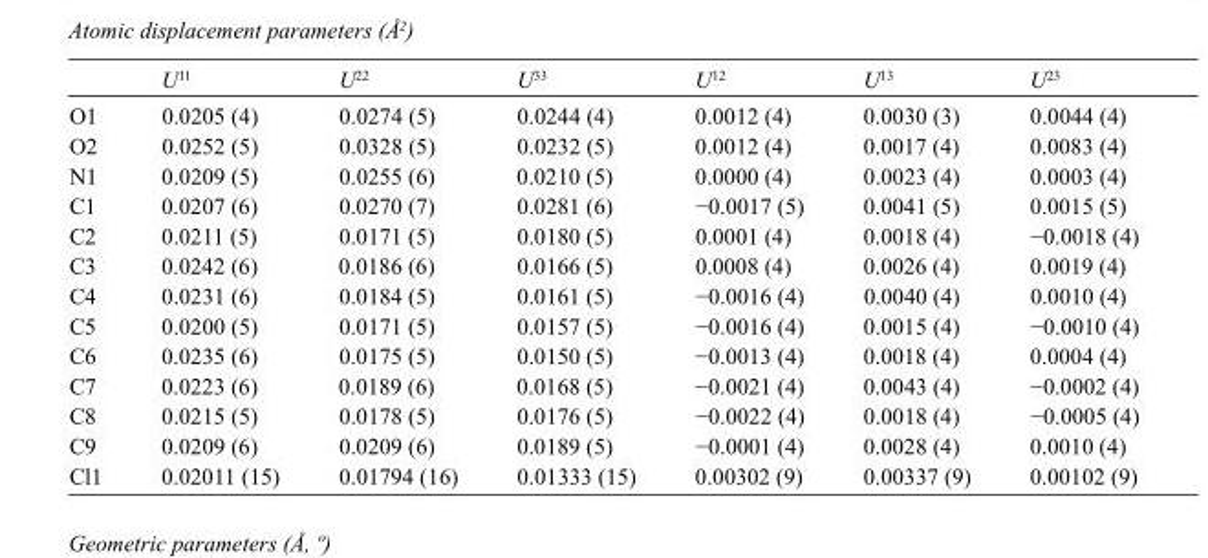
<table><thead><tr><td></td><td>U<sup>11</sup></td><td>U<sup>22</sup></td><td>U<sup>33</sup></td><td>U<sup>12</sup></td><td>U<sup>13</sup></td><td>U<sup>23</sup></td></tr></thead><tbody><tr><td>O1</td><td>0.0205 (4)</td><td>0.0274 (5)</td><td>0.0244 (4)</td><td>0.0012 (4)</td><td>0.0030 (3)</td><td>0.0044 (4)</td></tr><tr><td>O2</td><td>0.0252 (5)</td><td>0.0328 (5)</td><td>0.0232 (5)</td><td>0.0012 (4)</td><td>0.0017 (4)</td><td>0.0083 (4)</td></tr><tr><td>N1</td><td>0.0209 (5)</td><td>0.0255 (6)</td><td>0.0210 (5)</td><td>0.0000 (4)</td><td>0.0023 (4)</td><td>0.0003 (4)</td></tr><tr><td>C1</td><td>0.0207 (6)</td><td>0.0270 (7)</td><td>0.0281 (6)</td><td>−0.0017 (5)</td><td>0.0041 (5)</td><td>0.0015 (5)</td></tr><tr><td>C2</td><td>0.0211 (5)</td><td>0.0171 (5)</td><td>0.0180 (5)</td><td>0.0001 (4)</td><td>0.0018 (4)</td><td>−0.0018 (4)</td></tr><tr><td>C3</td><td>0.0242 (6)</td><td>0.0186 (6)</td><td>0.0166 (5)</td><td>0.0008 (4)</td><td>0.0026 (4)</td><td>0.0019 (4)</td></tr><tr><td>C4</td><td>0.0231 (6)</td><td>0.0184 (5)</td><td>0.0161 (5)</td><td>−0.0016 (4)</td><td>0.0040 (4)</td><td>0.0010 (4)</td></tr><tr><td>C5</td><td>0.0200 (5)</td><td>0.0171 (5)</td><td>0.0157 (5)</td><td>−0.0016 (4)</td><td>0.0015 (4)</td><td>−0.0010 (4)</td></tr><tr><td>C6</td><td>0.0235 (6)</td><td>0.0175 (5)</td><td>0.0150 (5)</td><td>−0.0013 (4)</td><td>0.0018 (4)</td><td>0.0004 (4)</td></tr><tr><td>C7</td><td>0.0223 (6)</td><td>0.0189 (6)</td><td>0.0168 (5)</td><td>−0.0021 (4)</td><td>0.0043 (4)</td><td>−0.0002 (4)</td></tr><tr><td>C8</td><td>0.0215 (5)</td><td>0.0178 (5)</td><td>0.0176 (5)</td><td>−0.0022 (4)</td><td>0.0018 (4)</td><td>−0.0005 (4)</td></tr><tr><td>C9</td><td>0.0209 (6)</td><td>0.0209 (6)</td><td>0.0189 (5)</td><td>−0.0001 (4)</td><td>0.0028 (4)</td><td>0.0010 (4)</td></tr><tr><td>Cl1</td><td>0.02011 (15)</td><td>0.01794 (16)</td><td>0.01333 (15)</td><td>0.00302 (9)</td><td>0.00337 (9)</td><td>0.00102 (9)</td></tr></tbody></table>